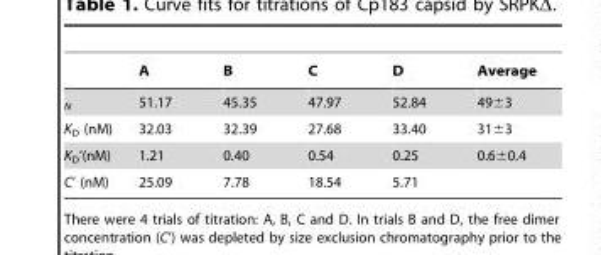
<table><thead><tr><td></td><td>A</td><td>B</td><td>C</td><td>D</td><td>Average</td></tr></thead><tbody><tr><td><sub>N</sub></td><td>51.17</td><td>45.35</td><td>47.97</td><td>52.84</td><td>49±3</td></tr><tr><td>K<sub>D</sub> (nM)</td><td>32.03</td><td>32.39</td><td>27.68</td><td>33.40</td><td>31±3</td></tr><tr><td>K<sub>D</sub>’(nM)</td><td>1.21</td><td>0.40</td><td>0.54</td><td>0.25</td><td>0.6±0.4</td></tr><tr><td>C’ (nM)</td><td>25.09</td><td>7.78</td><td>18.54</td><td>5.71</td><td></td></tr></tbody></table>